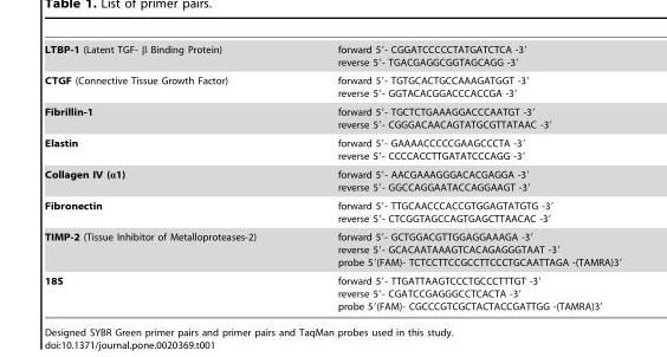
<table><tbody><tr><td>LTBP-1 (Latent TGF- β Binding Protein)</td><td>forward 5′- CGGATCCCCCTATGATCTCA -3′ reverse 5′- TGACGAGGCGGTAGCAGG -3′</td></tr><tr><td>CTGF (Connective Tissue Growth Factor)</td><td>forward 5′- TGTGCACTGCCAAAGATGGT -3′ reverse 5′- GGTACACGGACCCACCGA -3′</td></tr><tr><td>Fibrillin-1</td><td>forward 5′- TGCTCTGAAAGGACCCAATGT -3′ reverse 5′- CGGGACAACAGTATGCGTTATAAC -3′</td></tr><tr><td>Elastin</td><td>forward 5′- GAAAACCCCCGAAGCCCTA -3′ reverse 5′- CCCCACCTTGATATCCCAGG -3′</td></tr><tr><td>Collagen IV (α1)</td><td>forward 5′- AACGAAAGGGACACGAGGA -3′ reverse 5′- GGCCAGGAATACCAGGAAGT -3′</td></tr><tr><td>Fibronectin</td><td>forward 5′- TTGCAACCCACCGTGGAGTATGTG -3′ reverse 5′- CTCGGTAGCCAGTGAGCTTAACAC -3′</td></tr><tr><td>TIMP-2 (Tissue Inhibitor of Metalloproteases-2)</td><td>forward 5′- GCTGGACGTTGGAGGAAAGA -3′ reverse 5′- GCACAATAAAGTCACAGAGGGTAAT -3′ probe 5′(FAM)- TCTCCTTCCGCCTTCCCTGCAATTAGA -(TAMRA)3′</td></tr><tr><td>18S</td><td>forward 5′- TTGATTAAGTCCCTGCCCTTTGT -3′ reverse 5′- CGATCCGAGGGCCTCACTA -3′ probe 5′(FAM)- CGCCCGTCGCTACTACCGATTGG -(TAMRA)3′</td></tr></tbody></table>